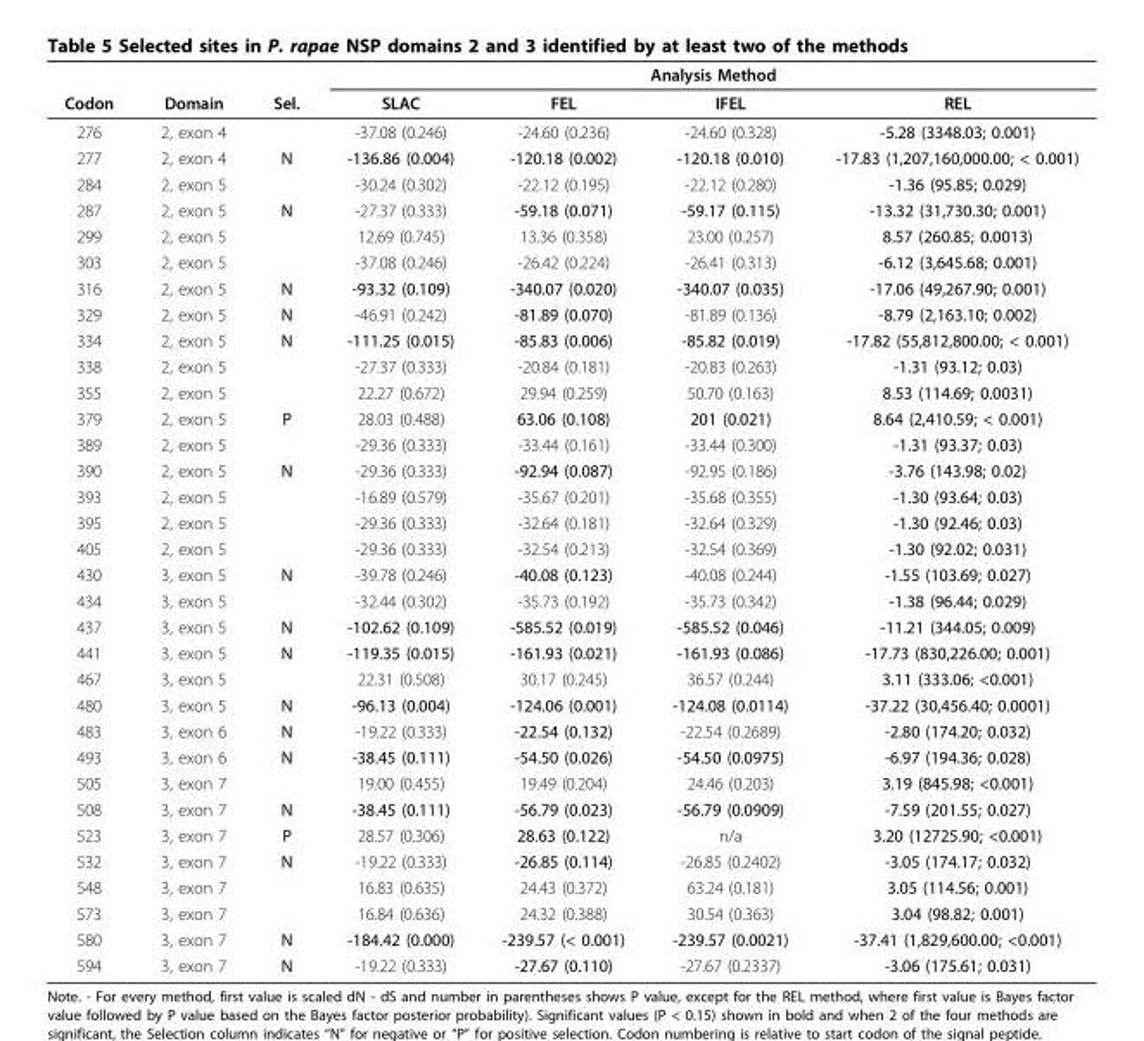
<table><thead><tr><td rowspan="2">Codon</td><td rowspan="2">Domain</td><td rowspan="2">Sel.</td><td colspan="4">Analysis Method</td></tr><tr><td>SLAC</td><td>FEL</td><td>IFEL</td><td>REL</td></tr></thead><tbody><tr><td>276</td><td>2, exon 4</td><td></td><td>-37.08 (0.246)</td><td>-24.60 (0.236)</td><td>-24.60 (0.328)</td><td>-5.28 (3348.03; 0.001)</td></tr><tr><td>277</td><td>2, exon 4</td><td>N</td><td>-136.86 (0.004)</td><td>-120.18 (0.002)</td><td>-120.18 (0.010)</td><td>-17.83 (1,207,160,000.00; &lt; 0.001)</td></tr><tr><td>284</td><td>2, exon 5</td><td></td><td>-30.24 (0.302)</td><td>-22.12 (0.195)</td><td>-22.12 (0.280)</td><td>-1.36 (95.85; 0.029)</td></tr><tr><td>287</td><td>2, exon 5</td><td>N</td><td>-27.37 (0.333)</td><td>-59.18 (0.071)</td><td>-59.17 (0.115)</td><td>-13.32 (31,730.30; 0.001)</td></tr><tr><td>299</td><td>2, exon 5</td><td></td><td>12.69 (0.745)</td><td>13.36 (0.358)</td><td>23.00 (0.257)</td><td>8.57 (260.85; 0.0013)</td></tr><tr><td>303</td><td>2, exon 5</td><td></td><td>-37.08 (0.246)</td><td>-26.42 (0.224)</td><td>-26.41 (0.313)</td><td>-6.12 (3,645.68; 0.001)</td></tr><tr><td>316</td><td>2, exon 5</td><td>N</td><td>-93.32 (0.109)</td><td>-340.07 (0.020)</td><td>-340.07 (0.035)</td><td>-17.06 (49,267.90; 0.001)</td></tr><tr><td>329</td><td>2, exon 5</td><td>N</td><td>-46.91 (0.242)</td><td>-81.89 (0.070)</td><td>-81.89 (0.136)</td><td>-8.79 (2,163.10; 0.002)</td></tr><tr><td>334</td><td>2, exon 5</td><td>N</td><td>-111.25 (0.015)</td><td>-85.83 (0.006)</td><td>-85.82 (0.019)</td><td>-17.82 (55,812,800.00; &lt; 0.001)</td></tr><tr><td>338</td><td>2, exon 5</td><td></td><td>-27.37 (0.333)</td><td>-20.84 (0.181)</td><td>-20.83 (0.263)</td><td>-1.31 (93.12; 0.03)</td></tr><tr><td>355</td><td>2, exon 5</td><td></td><td>22.27 (0.672)</td><td>29.94 (0.259)</td><td>50.70 (0.163)</td><td>8.53 (114.69; 0.0031)</td></tr><tr><td>379</td><td>2, exon 5</td><td>P</td><td>28.03 (0.488)</td><td>63.06 (0.108)</td><td>201 (0.021)</td><td>8.64 (2,410.59; &lt; 0.001)</td></tr><tr><td>389</td><td>2, exon 5</td><td></td><td>-29.36 (0.333)</td><td>-33.44 (0.161)</td><td>-33.44 (0.300)</td><td>-1.31 (93.37; 0.03)</td></tr><tr><td>390</td><td>2, exon 5</td><td>N</td><td>-29.36 (0.333)</td><td>-92.94 (0.087)</td><td>-92.95 (0.186)</td><td>-3.76 (143.98; 0.02)</td></tr><tr><td>393</td><td>2, exon 5</td><td></td><td>-16.89 (0.579)</td><td>-35.67 (0.201)</td><td>-35.68 (0.355)</td><td>-1.30 (93.64; 0.03)</td></tr><tr><td>395</td><td>2, exon 5</td><td></td><td>-29.36 (0.333)</td><td>-32.64 (0.181)</td><td>-32.64 (0.329)</td><td>-1.30 (92.46; 0.03)</td></tr><tr><td>405</td><td>2, exon 5</td><td></td><td>-29.36 (0.333)</td><td>-32.54 (0.213)</td><td>-32.54 (0.369)</td><td>-1.30 (92.02; 0.031)</td></tr><tr><td>430</td><td>3, exon 5</td><td>N</td><td>-39.78 (0.246)</td><td>-40.08 (0.123)</td><td>-40.08 (0.244)</td><td>-1.55 (103.69; 0.027)</td></tr><tr><td>434</td><td>3, exon 5</td><td></td><td>-32.44 (0.302)</td><td>-35.73 (0.192)</td><td>-35.73 (0.342)</td><td>-1.38 (96.44; 0.029)</td></tr><tr><td>437</td><td>3, exon 5</td><td>N</td><td>-102.62 (0.109)</td><td>-585.52 (0.019)</td><td>-585.52 (0.046)</td><td>-11.21 (344.05; 0.009)</td></tr><tr><td>441</td><td>3, exon 5</td><td>N</td><td>-119.35 (0.015)</td><td>-161.93 (0.021)</td><td>-161.93 (0.086)</td><td>-17.73 (830,226.00; 0.001)</td></tr><tr><td>467</td><td>3, exon 5</td><td></td><td>22.31 (0.508)</td><td>30.17 (0.245)</td><td>36.57 (0.244)</td><td>3.11 (333.06; &lt;0.001)</td></tr><tr><td>480</td><td>3, exon 5</td><td>N</td><td>-96.13 (0.004)</td><td>-124.06 (0.001)</td><td>-124.08 (0.0114)</td><td>-37.22 (30,456.40; 0.0001)</td></tr><tr><td>483</td><td>3, exon 6</td><td>N</td><td>-19.22 (0.333)</td><td>-22.54 (0.132)</td><td>-22.54 (0.2689)</td><td>-2.80 (174.20; 0.032)</td></tr><tr><td>493</td><td>3, exon 6</td><td>N</td><td>-38.45 (0.111)</td><td>-54.50 (0.026)</td><td>-54.50 (0.0975)</td><td>-6.97 (194.36; 0.028)</td></tr><tr><td>505</td><td>3, exon 7</td><td></td><td>19.00 (0.455)</td><td>19.49 (0.204)</td><td>24.46 (0.203)</td><td>3.19 (845.98; &lt;0.001)</td></tr><tr><td>508</td><td>3, exon 7</td><td>N</td><td>-38.45 (0.111)</td><td>-56.79 (0.023)</td><td>-56.79 (0.0909)</td><td>-7.59 (201.55; 0.027)</td></tr><tr><td>523</td><td>3, exon 7</td><td>P</td><td>28.57 (0.306)</td><td>28.63 (0.122)</td><td>n/a</td><td>3.20 (12725.90; &lt;0.001)</td></tr><tr><td>532</td><td>3, exon 7</td><td>N</td><td>-19.22 (0.333)</td><td>-26.85 (0.114)</td><td>-26.85 (0.2402)</td><td>-3.05 (174.17; 0.032)</td></tr><tr><td>548</td><td>3, exon 7</td><td></td><td>16.83 (0.635)</td><td>24.43 (0.372)</td><td>63.24 (0.181)</td><td>3.05 (114.56; 0.001)</td></tr><tr><td>573</td><td>3, exon 7</td><td></td><td>16.84 (0.636)</td><td>24.32 (0.388)</td><td>30.54 (0.363)</td><td>3.04 (98.82; 0.001)</td></tr><tr><td>580</td><td>3, exon 7</td><td>N</td><td>-184.42 (0.000)</td><td>-239.57 (&lt; 0.001)</td><td>-239.57 (0.0021)</td><td>-37.41 (1,829,600.00; &lt;0.001)</td></tr><tr><td>594</td><td>3, exon 7</td><td>N</td><td>-19.22 (0.333)</td><td>-27.67 (0.110)</td><td>-27.67 (0.2337)</td><td>-3.06 (175.61; 0.031)</td></tr></tbody></table>